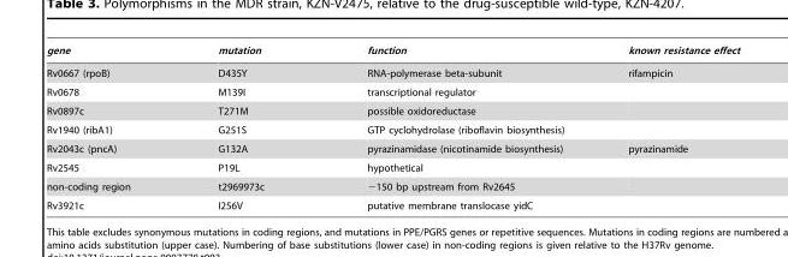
<table><thead><tr><td>gene</td><td>mutation</td><td>function</td><td>known resistance effect</td></tr></thead><tbody><tr><td>Rv0667 (rpoB)</td><td>D435Y</td><td>RNA-polymerase beta-subunit</td><td>rifampicin</td></tr><tr><td>Rv0678</td><td>M139I</td><td>transcriptional regulator</td><td></td></tr><tr><td>Rv0897c</td><td>T271M</td><td>possible oxidoreductase</td><td></td></tr><tr><td>Rv1940 (ribA1)</td><td>G251S</td><td>GTP cyclohydrolase (riboflavin biosynthesis)</td><td></td></tr><tr><td>Rv2043c (pncA)</td><td>G132A</td><td>pyrazinamidase (nicotinamide biosynthesis)</td><td>pyrazinamide</td></tr><tr><td>Rv2545</td><td>P19L</td><td>hypothetical</td><td></td></tr><tr><td>non-coding region</td><td>t2969973c</td><td>−150 bp upstream from Rv2645</td><td></td></tr><tr><td>Rv3921c</td><td>I256V</td><td>putative membrane translocase yidC</td><td></td></tr></tbody></table>